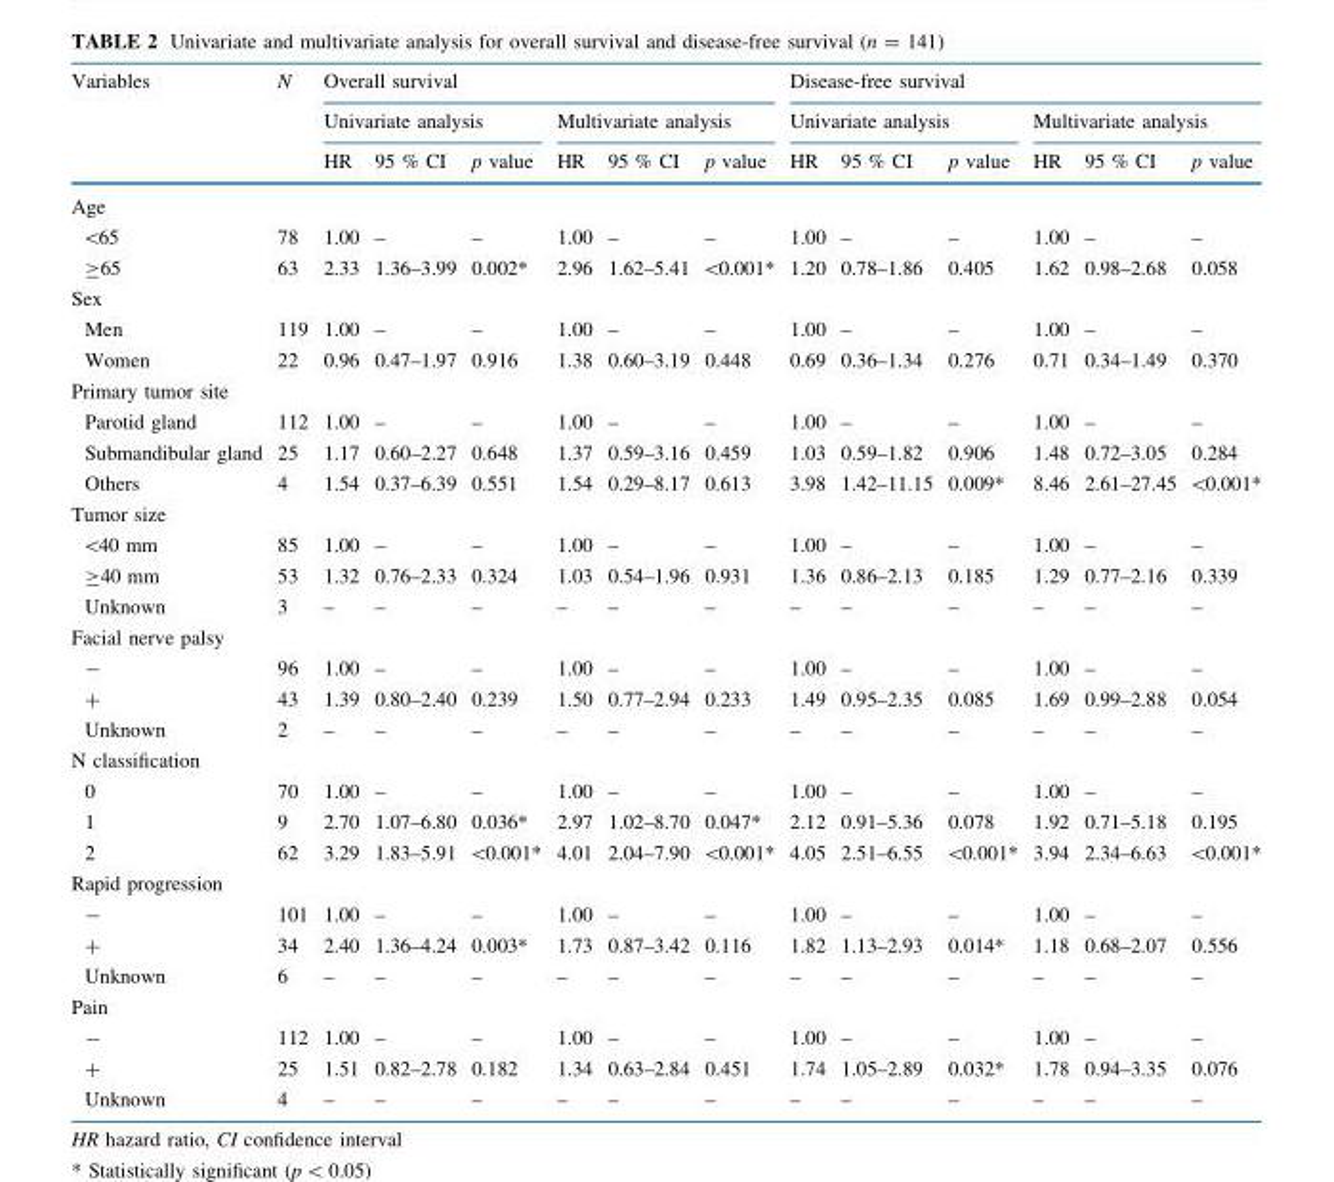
<table><thead><tr><td rowspan="3">Variables</td><td rowspan="3">N</td><td colspan="6">Overall survival</td><td colspan="6">Disease-free survival</td></tr><tr><td colspan="3">Univariate analysis</td><td colspan="3">Multivariate analysis</td><td colspan="3">Univariate analysis</td><td colspan="3">Multivariate analysis</td></tr><tr><td>HR</td><td>95 % CI</td><td>p value</td><td>HR</td><td>95 % CI</td><td>p value</td><td>HR</td><td>95 % CI</td><td>p value</td><td>HR</td><td>95 % CI</td><td>p value</td></tr></thead><tbody><tr><td colspan="14">Age</td></tr><tr><td>&lt;65</td><td>78</td><td>1.00</td><td>–</td><td>–</td><td>1.00</td><td>–</td><td>–</td><td>1.00</td><td>–</td><td>–</td><td>1.00</td><td>–</td><td>–</td></tr><tr><td>≥65</td><td>63</td><td>2.33</td><td>1.36–3.99</td><td>0.002*</td><td>2.96</td><td>1.62–5.41</td><td>&lt;0.001*</td><td>1.20</td><td>0.78–1.86</td><td>0.405</td><td>1.62</td><td>0.98–2.68</td><td>0.058</td></tr><tr><td colspan="14">Sex</td></tr><tr><td>Men</td><td>119</td><td>1.00</td><td>–</td><td>–</td><td>1.00</td><td>–</td><td>–</td><td>1.00</td><td>–</td><td>–</td><td>1.00</td><td>–</td><td>–</td></tr><tr><td>Women</td><td>22</td><td>0.96</td><td>0.47–1.97</td><td>0.916</td><td>1.38</td><td>0.60–3.19</td><td>0.448</td><td>0.69</td><td>0.36–1.34</td><td>0.276</td><td>0.71</td><td>0.34–1.49</td><td>0.370</td></tr><tr><td colspan="14">Primary tumor site</td></tr><tr><td>Parotid gland</td><td>112</td><td>1.00</td><td>–</td><td>–</td><td>1.00</td><td>–</td><td>–</td><td>1.00</td><td>–</td><td>–</td><td>1.00</td><td>–</td><td>–</td></tr><tr><td>Submandibular gland</td><td>25</td><td>1.17</td><td>0.60–2.27</td><td>0.648</td><td>1.37</td><td>0.59–3.16</td><td>0.459</td><td>1.03</td><td>0.59–1.82</td><td>0.906</td><td>1.48</td><td>0.72–3.05</td><td>0.284</td></tr><tr><td>Others</td><td>4</td><td>1.54</td><td>0.37–6.39</td><td>0.551</td><td>1.54</td><td>0.29–8.17</td><td>0.613</td><td>3.98</td><td>1.42–11.15</td><td>0.009*</td><td>8.46</td><td>2.61–27.45</td><td>&lt;0.001*</td></tr><tr><td colspan="14">Tumor size</td></tr><tr><td>&lt;40 mm</td><td>85</td><td>1.00</td><td>–</td><td>–</td><td>1.00</td><td>–</td><td>–</td><td>1.00</td><td>–</td><td>–</td><td>1.00</td><td>–</td><td>–</td></tr><tr><td>≥40 mm</td><td>53</td><td>1.32</td><td>0.76–2.33</td><td>0.324</td><td>1.03</td><td>0.54–1.96</td><td>0.931</td><td>1.36</td><td>0.86–2.13</td><td>0.185</td><td>1.29</td><td>0.77–2.16</td><td>0.339</td></tr><tr><td>Unknown</td><td>3</td><td>–</td><td>–</td><td>–</td><td>–</td><td>–</td><td>–</td><td>–</td><td>–</td><td>–</td><td>–</td><td>–</td><td>–</td></tr><tr><td colspan="14">Facial nerve palsy</td></tr><tr><td>-</td><td>96</td><td>1.00</td><td>–</td><td>–</td><td>1.00</td><td>–</td><td>–</td><td>1.00</td><td>–</td><td>–</td><td>1.00</td><td>–</td><td>–</td></tr><tr><td>+</td><td>43</td><td>1.39</td><td>0.80–2.40</td><td>0.239</td><td>1.50</td><td>0.77–2.94</td><td>0.233</td><td>1.49</td><td>0.95–2.35</td><td>0.085</td><td>1.69</td><td>0.99–2.88</td><td>0.054</td></tr><tr><td>Unknown</td><td>2</td><td>–</td><td>–</td><td>–</td><td>–</td><td>–</td><td>–</td><td>–</td><td>–</td><td>–</td><td>–</td><td>–</td><td>–</td></tr><tr><td colspan="14">N classification</td></tr><tr><td>0</td><td>70</td><td>1.00</td><td>–</td><td>–</td><td>1.00</td><td>–</td><td>–</td><td>1.00</td><td>–</td><td>–</td><td>1.00</td><td>–</td><td>–</td></tr><tr><td>1</td><td>9</td><td>2.70</td><td>1.07–6.80</td><td>0.036*</td><td>2.97</td><td>1.02–8.70</td><td>0.047*</td><td>2.12</td><td>0.91–5.36</td><td>0.078</td><td>1.92</td><td>0.71–5.18</td><td>0.195</td></tr><tr><td>2</td><td>62</td><td>3.29</td><td>1.83–5.91</td><td>&lt;0.001*</td><td>4.01</td><td>2.04–7.90</td><td>&lt;0.001*</td><td>4.05</td><td>2.51–6.55</td><td>&lt;0.001*</td><td>3.94</td><td>2.34–6.63</td><td>&lt;0.001*</td></tr><tr><td colspan="14">Rapid progression</td></tr><tr><td>-</td><td>101</td><td>1.00</td><td>–</td><td>–</td><td>1.00</td><td>–</td><td>–</td><td>1.00</td><td>–</td><td>–</td><td>1.00</td><td>–</td><td>–</td></tr><tr><td>+</td><td>34</td><td>2.40</td><td>1.36–4.24</td><td>0.003*</td><td>1.73</td><td>0.87–3.42</td><td>0.116</td><td>1.82</td><td>1.13–2.93</td><td>0.014*</td><td>1.18</td><td>0.68–2.07</td><td>0.556</td></tr><tr><td>Unknown</td><td>6</td><td>–</td><td>–</td><td>–</td><td>–</td><td>–</td><td>–</td><td>–</td><td>–</td><td>–</td><td>–</td><td>–</td><td>–</td></tr><tr><td colspan="14">Pain</td></tr><tr><td>-</td><td>112</td><td>1.00</td><td>–</td><td>–</td><td>1.00</td><td>–</td><td>–</td><td>1.00</td><td>–</td><td>–</td><td>1.00</td><td>–</td><td>–</td></tr><tr><td>+</td><td>25</td><td>1.51</td><td>0.82–2.78</td><td>0.182</td><td>1.34</td><td>0.63–2.84</td><td>0.451</td><td>1.74</td><td>1.05–2.89</td><td>0.032*</td><td>1.78</td><td>0.94–3.35</td><td>0.076</td></tr><tr><td>Unknown</td><td>4</td><td>–</td><td>–</td><td>–</td><td>–</td><td>–</td><td>–</td><td>–</td><td>–</td><td>–</td><td>–</td><td>–</td><td>–</td></tr></tbody></table>